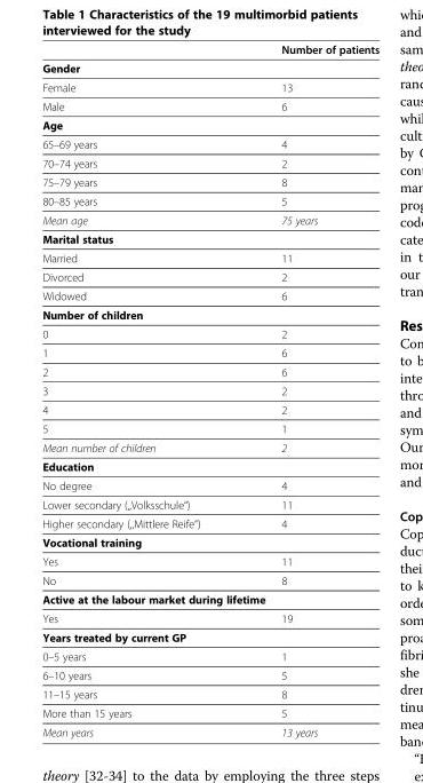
<table><thead><tr><td></td><td>Number of patients</td></tr></thead><tbody><tr><td colspan="2">Gender</td></tr><tr><td>Female</td><td>13</td></tr><tr><td>Male</td><td>6</td></tr><tr><td colspan="2">Age</td></tr><tr><td>65–69 years</td><td>4</td></tr><tr><td>70–74 years</td><td>2</td></tr><tr><td>75–79 years</td><td>8</td></tr><tr><td>80–85 years</td><td>5</td></tr><tr><td>Mean age</td><td>75 years</td></tr><tr><td colspan="2">Marital status</td></tr><tr><td>Married</td><td>11</td></tr><tr><td>Divorced</td><td>2</td></tr><tr><td>Widowed</td><td>6</td></tr><tr><td colspan="2">Number of children</td></tr><tr><td>0</td><td>2</td></tr><tr><td>1</td><td>6</td></tr><tr><td>2</td><td>6</td></tr><tr><td>3</td><td>2</td></tr><tr><td>4</td><td>2</td></tr><tr><td>5</td><td>1</td></tr><tr><td>Mean number of children</td><td>2</td></tr><tr><td colspan="2">Education</td></tr><tr><td>No degree</td><td>4</td></tr><tr><td>Lower secondary (,,Volksschule“)</td><td>11</td></tr><tr><td>Higher secondary (,,Mittlere Reife“)</td><td>4</td></tr><tr><td colspan="2">Vocational training</td></tr><tr><td>Yes</td><td>11</td></tr><tr><td>No</td><td>8</td></tr><tr><td colspan="2">Active at the labour market during lifetime</td></tr><tr><td>Yes</td><td>19</td></tr><tr><td colspan="2">Years treated by current GP</td></tr><tr><td>0–5 years</td><td>1</td></tr><tr><td>6–10 years</td><td>5</td></tr><tr><td>11–15 years</td><td>8</td></tr><tr><td>More than 15 years</td><td>5</td></tr><tr><td>Mean years</td><td>13 years</td></tr></tbody></table>